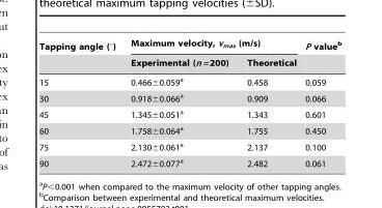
<table><thead><tr><td rowspan="2">Tapping angle (°)</td><td colspan="2">Maximum velocity, v<sub>max</sub> (m/s)</td><td rowspan="2">P value<sup>b</sup></td></tr><tr><td>Experimental (n = 200)</td><td>Theoretical</td></tr></thead><tbody><tr><td>15</td><td>0.466±0.059<sup>a</sup></td><td>0.458</td><td>0.059</td></tr><tr><td>30</td><td>0.918±0.066<sup>a</sup></td><td>0.909</td><td>0.066</td></tr><tr><td>45</td><td>1.345±0.051<sup>a</sup></td><td>1.343</td><td>0.601</td></tr><tr><td>60</td><td>1.758±0.064<sup>a</sup></td><td>1.755</td><td>0.450</td></tr><tr><td>75</td><td>2.130±0.061<sup>a</sup></td><td>2.137</td><td>0.100</td></tr><tr><td>90</td><td>2.472±0.077<sup>a</sup></td><td>2.482</td><td>0.061</td></tr></tbody></table>